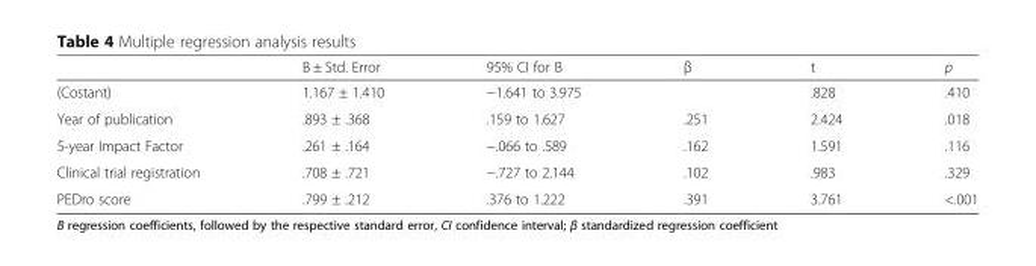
<table><thead><tr><td></td><td>B ± Std. Error</td><td>95% CI for B</td><td>β</td><td>t</td><td>p</td></tr></thead><tbody><tr><td>(Costant)</td><td>1.167 ± 1.410</td><td>−1.641 to 3.975</td><td></td><td>.828</td><td>.410</td></tr><tr><td>Year of publication</td><td>.893 ± .368</td><td>.159 to 1.627</td><td>.251</td><td>2.424</td><td>.018</td></tr><tr><td>5-year Impact Factor</td><td>.261 ± .164</td><td>−.066 to .589</td><td>.162</td><td>1.591</td><td>.116</td></tr><tr><td>Clinical trial registration</td><td>.708 ± .721</td><td>−.727 to 2.144</td><td>.102</td><td>.983</td><td>.329</td></tr><tr><td>PEDro score</td><td>.799 ± .212</td><td>.376 to 1.222</td><td>.391</td><td>3.761</td><td>&lt;.001</td></tr></tbody></table>